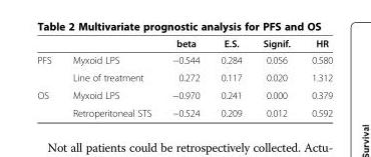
<table><thead><tr><td></td><td></td><td>beta</td><td>E.S.</td><td>Signif.</td><td>HR</td></tr></thead><tbody><tr><td rowspan="2">PFS</td><td>Myxoid LPS</td><td>−0.544</td><td>0.284</td><td>0.056</td><td>0.580</td></tr><tr><td>Line of treatment</td><td>0.272</td><td>0.117</td><td>0.020</td><td>1.312</td></tr><tr><td rowspan="2">OS</td><td>Myxoid LPS</td><td>−0.970</td><td>0.241</td><td>0.000</td><td>0.379</td></tr><tr><td>Retroperitoneal STS</td><td>−0.524</td><td>0.209</td><td>0.012</td><td>0.592</td></tr></tbody></table>